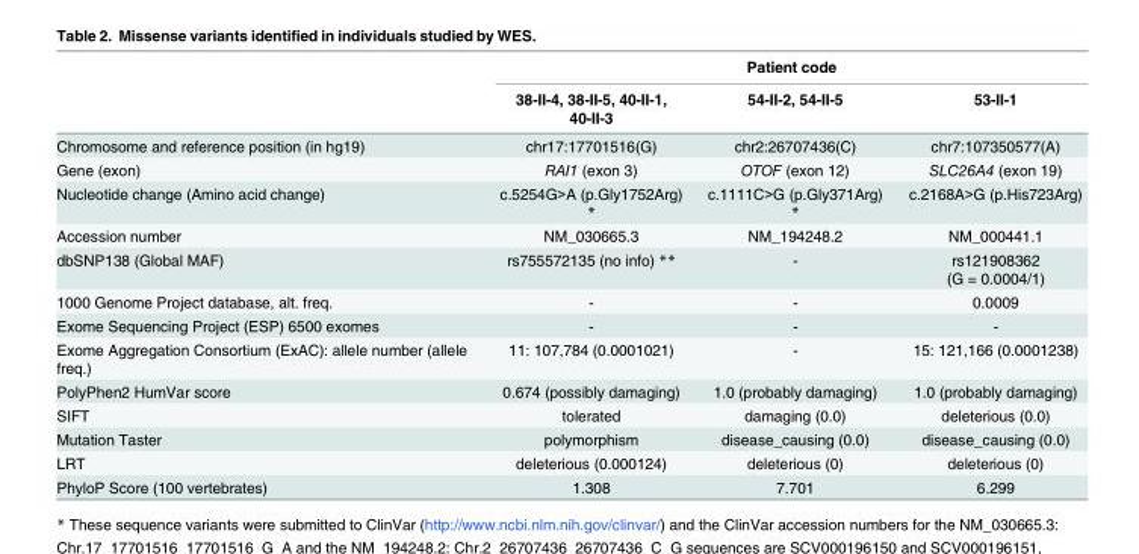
<table><thead><tr><td rowspan="2"></td><td colspan="3">Patient code</td></tr><tr><td>38-II-4, 38-II-5, 40-II-1, 40-II-3</td><td>54-II-2, 54-II-5</td><td>53-II-1</td></tr></thead><tbody><tr><td>Chromosome and reference position (in hg19)</td><td>chr17:17701516(G)</td><td>chr2:26707436(C)</td><td>chr7:107350577(A)</td></tr><tr><td>Gene (exon)</td><td>RAI1 (exon 3)</td><td>OTOF (exon 12)</td><td>SLC26A4 (exon 19)</td></tr><tr><td>Nucleotide change (Amino acid change)</td><td>c.5254G&gt;A (p.Gly1752Arg) *</td><td>c.1111C&gt;G (p.Gly371Arg) *</td><td>c.2168A&gt;G (p.His723Arg)</td></tr><tr><td>Accession number</td><td>NM_030665.3</td><td>NM_194248.2</td><td>NM_000441.1</td></tr><tr><td>dbSNP138 (Global MAF)</td><td>rs755572135 (no info) **</td><td>-</td><td>rs121908362 (G = 0.0004/1)</td></tr><tr><td>1000 Genome Project database, alt. freq.</td><td>-</td><td>-</td><td>0.0009</td></tr><tr><td>Exome Sequencing Project (ESP) 6500 exomes</td><td>-</td><td>-</td><td>-</td></tr><tr><td>Exome Aggregation Consortium (ExAC): allele number (allele freq.)</td><td>11: 107,784 (0.0001021)</td><td>-</td><td>15: 121,166 (0.0001238)</td></tr><tr><td>PolyPhen2 HumVar score</td><td>0.674 (possibly damaging)</td><td>1.0 (probably damaging)</td><td>1.0 (probably damaging)</td></tr><tr><td>SIFT</td><td>tolerated</td><td>damaging (0.0)</td><td>deleterious (0.0)</td></tr><tr><td>Mutation Taster</td><td>polymorphism</td><td>disease_causing (0.0)</td><td>disease_causing (0.0)</td></tr><tr><td>LRT</td><td>deleterious (0.000124)</td><td>deleterious (0)</td><td>deleterious (0)</td></tr><tr><td>PhyloP Score (100 vertebrates)</td><td>1.308</td><td>7.701</td><td>6.299</td></tr></tbody></table>